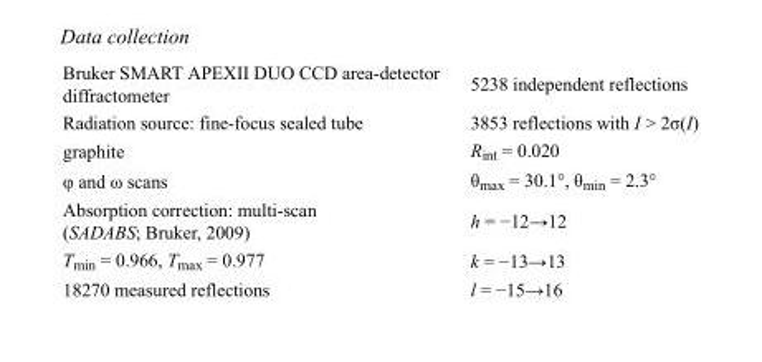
<table><tbody><tr><td>Bruker SMART APEXII DUO CCD area-detector diffractometer</td><td>5238 independent reflections</td></tr><tr><td>Radiation source: fine-focus sealed tube</td><td>3853 reflections with I &gt; 2σ(I)</td></tr><tr><td>graphite</td><td>R<sub>int</sub> = 0.020</td></tr><tr><td>φ and ω scans</td><td>θ<sub>max</sub> = 30.1°, θ<sub>min</sub> = 2.3°</td></tr><tr><td>Absorption correction: multi-scan (SADABS; Bruker, 2009)</td><td>h = −12→12</td></tr><tr><td>T<sub>min</sub> = 0.966, T<sub>max</sub> = 0.977</td><td>k = −13→13</td></tr><tr><td>18270 measured reflections</td><td>l = −15→16</td></tr></tbody></table>